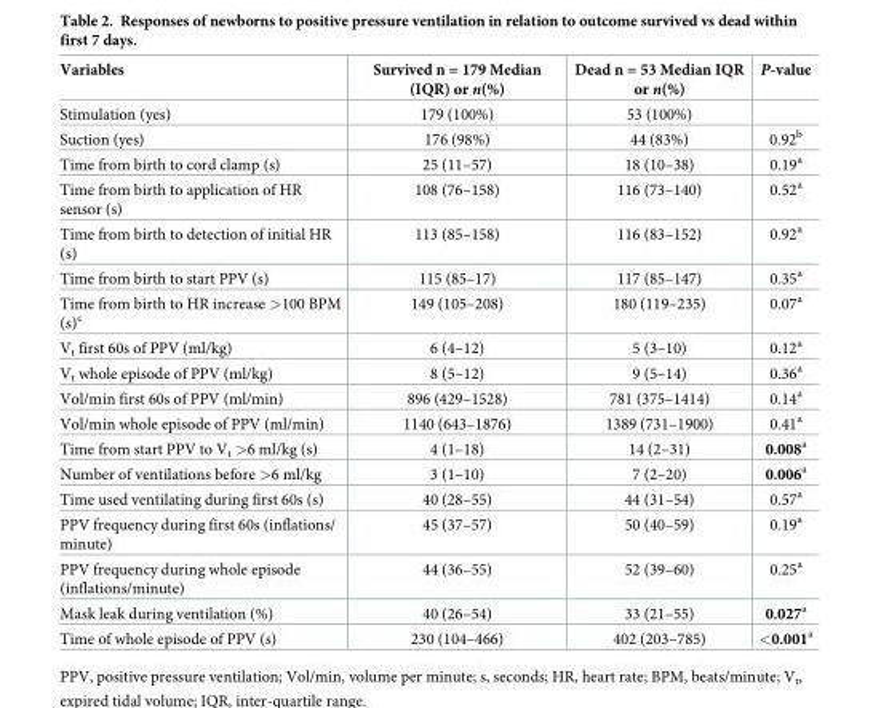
<table><thead><tr><td>Variables</td><td>Survived n = 179 Median (IQR) or n(%)</td><td>Dead n = 53 Median IQR or n(%)</td><td>P-value</td></tr></thead><tbody><tr><td>Stimulation (yes)</td><td>179 (100%)</td><td>53 (100%)</td><td></td></tr><tr><td>Suction (yes)</td><td>176 (98%)</td><td>44 (83%)</td><td>0.92<sup>b</sup></td></tr><tr><td>Time from birth to cord clamp (s)</td><td>25 (11–57)</td><td>18 (10–38)</td><td>0.19<sup>a</sup></td></tr><tr><td>Time from birth to application of HR sensor (s)</td><td>108 (76–158)</td><td>116 (73–140)</td><td>0.52<sup>a</sup></td></tr><tr><td>Time from birth to detection of initial HR (s)</td><td>113 (85–158)</td><td>116 (83–152)</td><td>0.92<sup>a</sup></td></tr><tr><td>Time from birth to start PPV (s)</td><td>115 (85–17)</td><td>117 (85–147)</td><td>0.35<sup>a</sup></td></tr><tr><td>Time from birth to HR increase &gt;100 BPM (s)<sup>c</sup></td><td>149 (105–208)</td><td>180 (119–235)</td><td>0.07<sup>a</sup></td></tr><tr><td>V<sub>t</sub> first 60s of PPV (ml/kg)</td><td>6 (4–12)</td><td>5 (3–10)</td><td>0.12<sup>a</sup></td></tr><tr><td>V<sub>t</sub> whole episode of PPV (ml/kg)</td><td>8 (5–12)</td><td>9 (5–14)</td><td>0.36<sup>a</sup></td></tr><tr><td>Vol/min first 60s of PPV (ml/min)</td><td>896 (429–1528)</td><td>781 (375–1414)</td><td>0.14<sup>a</sup></td></tr><tr><td>Vol/min whole episode of PPV (ml/min)</td><td>1140 (643–1876)</td><td>1389 (731–1900)</td><td>0.41<sup>a</sup></td></tr><tr><td>Time from start PPV to V<sub>t</sub> &gt;6 ml/kg (s)</td><td>4 (1–18)</td><td>14 (2–31)</td><td>0.008<sup>a</sup></td></tr><tr><td>Number of ventilations before &gt;6 ml/kg</td><td>3 (1–10)</td><td>7 (2–20)</td><td>0.006<sup>a</sup></td></tr><tr><td>Time used ventilating during first 60s (s)</td><td>40 (28–55)</td><td>44 (31–54)</td><td>0.57<sup>a</sup></td></tr><tr><td>PPV frequency during first 60s (inflations/ minute)</td><td>45 (37–57)</td><td>50 (40–59)</td><td>0.19<sup>a</sup></td></tr><tr><td>PPV frequency during whole episode (inflations/minute)</td><td>44 (36–55)</td><td>52 (39–60)</td><td>0.25<sup>a</sup></td></tr><tr><td>Mask leak during ventilation (%)</td><td>40 (26–54)</td><td>33 (21–55)</td><td>0.027<sup>a</sup></td></tr><tr><td>Time of whole episode of PPV (s)</td><td>230 (104–466)</td><td>402 (203–785)</td><td>&lt;0.001<sup>a</sup></td></tr></tbody></table>